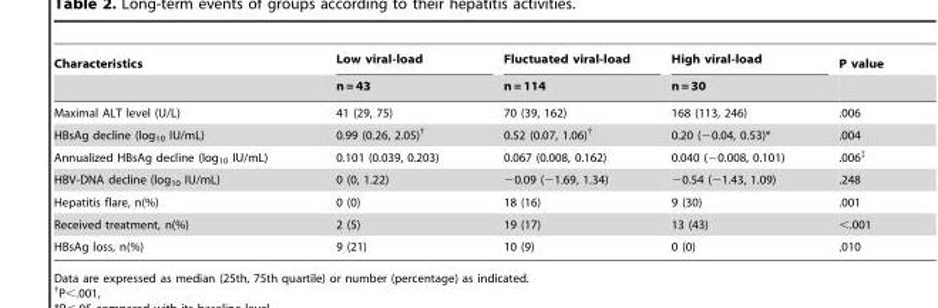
<table><thead><tr><td rowspan="2">Characteristics</td><td rowspan="2">Low viral-load n = 43</td><td rowspan="2">Fluctuated viral-load n = 114</td><td rowspan="2">High viral-load n = 30</td><td rowspan="2">P value</td></tr><tr></tr></thead><tbody><tr><td>Maximal ALT level (U/L)</td><td>41 (29, 75)</td><td>70 (39, 162)</td><td>168 (113, 246)</td><td>.006</td></tr><tr><td>HBsAg decline (log<sub>10</sub> IU/mL)</td><td>0.99 (0.26, 2.05)†</td><td>0.52 (0.07, 1.06)†</td><td>0.20 (−0.04, 0.53)*</td><td>.004</td></tr><tr><td>Annualized HBsAg decline (log<sub>10</sub> IU/mL)</td><td>0.101 (0.039, 0.203)</td><td>0.067 (0.008, 0.162)</td><td>0.040 (−0.008, 0.101)</td><td>.006‡</td></tr><tr><td>HBV-DNA decline (log<sub>10</sub> IU/mL)</td><td>0 (0, 1.22)</td><td>−0.09 (−1.69, 1.34)</td><td>−0.54 (−1.43, 1.09)</td><td>.248</td></tr><tr><td>Hepatitis flare, n(%)</td><td>0 (0)</td><td>18 (16)</td><td>9 (30)</td><td>.001</td></tr><tr><td>Received treatment, n(%)</td><td>2 (5)</td><td>19 (17)</td><td>13 (43)</td><td>&lt;.001</td></tr><tr><td>HBsAg loss, n(%)</td><td>9 (21)</td><td>10 (9)</td><td>0 (0)</td><td>.010</td></tr></tbody></table>